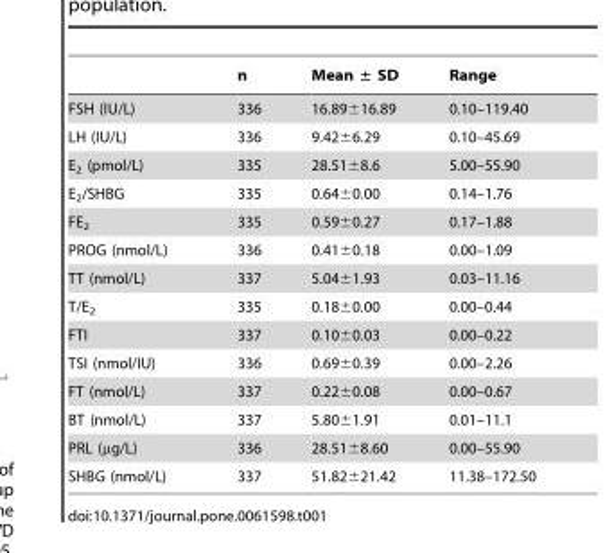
<table><thead><tr><td></td><td>n</td><td>Mean ± SD</td><td>Range</td></tr></thead><tbody><tr><td>FSH (IU/L)</td><td>336</td><td>16.89±16.89</td><td>0.10–119.40</td></tr><tr><td>LH (IU/L)</td><td>336</td><td>9.42±6.29</td><td>0.10–45.69</td></tr><tr><td>E<sub>2</sub> (pmol/L)</td><td>335</td><td>28.51±8.6</td><td>5.00–55.90</td></tr><tr><td>E<sub>2</sub>/SHBG</td><td>335</td><td>0.64±0.00</td><td>0.14–1.76</td></tr><tr><td>FE<sub>2</sub></td><td>335</td><td>0.59±0.27</td><td>0.17–1.88</td></tr><tr><td>PROG (nmol/L)</td><td>336</td><td>0.41±0.18</td><td>0.00–1.09</td></tr><tr><td>TT (nmol/L)</td><td>337</td><td>5.04±1.93</td><td>0.03–11.16</td></tr><tr><td>T/E<sub>2</sub></td><td>335</td><td>0.18±0.00</td><td>0.00–0.44</td></tr><tr><td>FTI</td><td>337</td><td>0.10±0.03</td><td>0.00–0.22</td></tr><tr><td>TSI (nmol/IU)</td><td>336</td><td>0.69±0.39</td><td>0.00–2.26</td></tr><tr><td>FT (nmol/L)</td><td>337</td><td>0.22±0.08</td><td>0.00–0.67</td></tr><tr><td>BT (nmol/L)</td><td>337</td><td>5.80±1.91</td><td>0.01–11.1</td></tr><tr><td>PRL (μg/L)</td><td>336</td><td>28.51±8.60</td><td>0.00–55.90</td></tr><tr><td>SHBG (nmol/L)</td><td>337</td><td>51.82±21.42</td><td>11.38–172.50</td></tr></tbody></table>